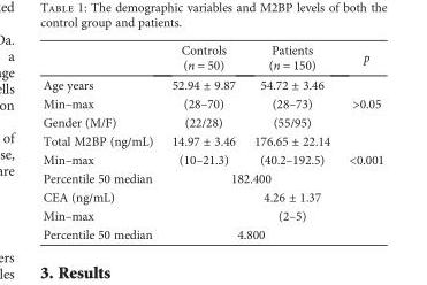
<table><thead><tr><td></td><td>Controls (n = 50)</td><td>Patients (n = 150)</td><td>p</td></tr></thead><tbody><tr><td>Age years</td><td>52.94 ± 9.87</td><td>54.72 ± 3.46</td><td rowspan="3">&gt;0.05</td></tr><tr><td>Min–max</td><td>(28–70)</td><td>(28–73)</td></tr><tr><td>Gender (M/F)</td><td>(22/28)</td><td>(55/95)</td></tr><tr><td>Total M2BP (ng/mL)</td><td>14.97 ± 3.46</td><td>176.65 ± 22.14</td><td rowspan="3">&lt;0.001</td></tr><tr><td>Min–max</td><td>(10–21.3)</td><td>(40.2–192.5)</td></tr><tr><td>Percentile 50 median</td><td colspan="2">182.400</td></tr><tr><td>CEA (ng/mL)</td><td></td><td>4.26 ± 1.37</td><td rowspan="3"></td></tr><tr><td>Min–max</td><td></td><td>(2–5)</td></tr><tr><td>Percentile 50 median</td><td colspan="2">4.800</td></tr></tbody></table>